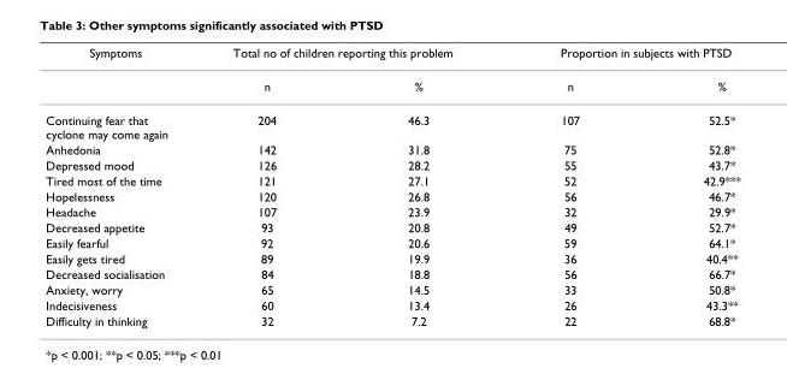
<table><thead><tr><td rowspan="2">Symptoms</td><td colspan="2">Total no of children reporting this problem</td><td colspan="2">Proportion in subjects with PTSD</td></tr><tr><td>n</td><td>%</td><td>n</td><td>%</td></tr></thead><tbody><tr><td>Continuing fear that cyclone may come again</td><td>204</td><td>46.3</td><td>107</td><td>52.5*</td></tr><tr><td>Anhedonia</td><td>142</td><td>31.8</td><td>75</td><td>52.8*</td></tr><tr><td>Depressed mood</td><td>126</td><td>28.2</td><td>55</td><td>43.7*</td></tr><tr><td>Tired most of the time</td><td>121</td><td>27.1</td><td>52</td><td>42.9***</td></tr><tr><td>Hopelessness</td><td>120</td><td>26.8</td><td>56</td><td>46.7*</td></tr><tr><td>Headache</td><td>107</td><td>23.9</td><td>32</td><td>29.9*</td></tr><tr><td>Decreased appetite</td><td>93</td><td>20.8</td><td>49</td><td>52.7*</td></tr><tr><td>Easily fearful</td><td>92</td><td>20.6</td><td>59</td><td>64.1*</td></tr><tr><td>Easily gets tired</td><td>89</td><td>19.9</td><td>36</td><td>40.4**</td></tr><tr><td>Decreased socialisation</td><td>84</td><td>18.8</td><td>56</td><td>66.7*</td></tr><tr><td>Anxiety, worry</td><td>65</td><td>14.5</td><td>33</td><td>50.8*</td></tr><tr><td>Indecisiveness</td><td>60</td><td>13.4</td><td>26</td><td>43.3**</td></tr><tr><td>Difficulty in thinking</td><td>32</td><td>7.2</td><td>22</td><td>68.8*</td></tr></tbody></table>